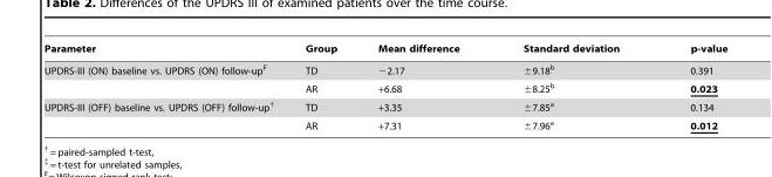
<table><thead><tr><td>Parameter</td><td>Group</td><td>Mean difference</td><td>Standard deviation</td><td>p-value</td></tr></thead><tbody><tr><td rowspan="2">UPDRS-III (ON) baseline vs. UPDRS (ON) follow-upF-</td><td>TD</td><td>−2.17</td><td>±9.18<sup>b</sup></td><td>0.391</td></tr><tr><td>AR</td><td>+6.68</td><td>±8.25<sup>b</sup></td><td>0.023</td></tr><tr><td rowspan="2">UPDRS-III (OFF) baseline vs. UPDRS (OFF) follow-up†</td><td>TD</td><td>+3.35</td><td>±7.85<sup>a</sup></td><td>0.134</td></tr><tr><td>AR</td><td>+7.31</td><td>±7.96<sup>a</sup></td><td>0.012</td></tr></tbody></table>